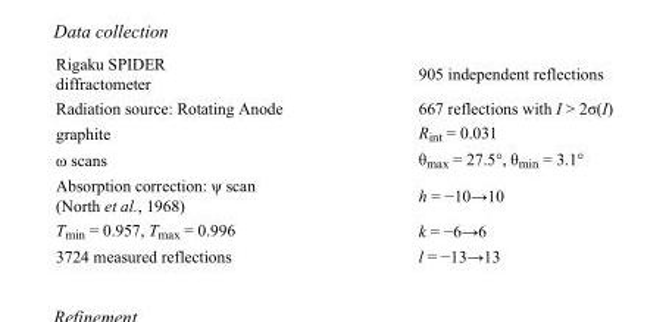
<table><tbody><tr><td>Rigaku SPIDER diffractometer</td><td>905 independent reflections</td></tr><tr><td>Radiation source: Rotating Anode</td><td>667 reflections with I &gt; 2σ(I)</td></tr><tr><td>graphite</td><td>R<sub>int</sub> = 0.031</td></tr><tr><td>ω scans</td><td>θ<sub>max</sub> = 27.5°, θ<sub>min</sub> = 3.1°</td></tr><tr><td>Absorption correction: ψ scan (North et al., 1968)</td><td>h = −10→10</td></tr><tr><td>T<sub>min</sub> = 0.957, T<sub>max</sub> = 0.996</td><td>k = −6→6</td></tr><tr><td>3724 measured reflections</td><td>l = −13→13</td></tr></tbody></table>